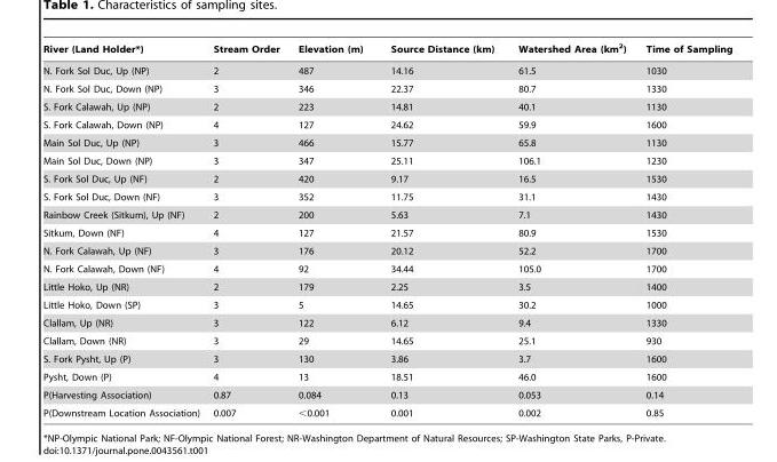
<table><thead><tr><td>River (Land Holder*)</td><td>Stream Order</td><td>Elevation (m)</td><td>Source Distance (km)</td><td>Watershed Area (km<sup>2</sup>)</td><td>Time of Sampling</td></tr></thead><tbody><tr><td>N. Fork Sol Duc, Up (NP)</td><td>2</td><td>487</td><td>14.16</td><td>61.5</td><td>1030</td></tr><tr><td>N. Fork Sol Duc, Down (NP)</td><td>3</td><td>346</td><td>22.37</td><td>80.7</td><td>1330</td></tr><tr><td>S. Fork Calawah, Up (NP)</td><td>2</td><td>223</td><td>14.81</td><td>40.1</td><td>1130</td></tr><tr><td>S. Fork Calawah, Down (NP)</td><td>4</td><td>127</td><td>24.62</td><td>59.9</td><td>1600</td></tr><tr><td>Main Sol Duc, Up (NP)</td><td>3</td><td>466</td><td>15.77</td><td>65.8</td><td>1130</td></tr><tr><td>Main Sol Duc, Down (NP)</td><td>3</td><td>347</td><td>25.11</td><td>106.1</td><td>1230</td></tr><tr><td>S. Fork Sol Duc, Up (NF)</td><td>2</td><td>420</td><td>9.17</td><td>16.5</td><td>1530</td></tr><tr><td>S. Fork Sol Duc, Down (NF)</td><td>3</td><td>352</td><td>11.75</td><td>31.1</td><td>1430</td></tr><tr><td>Rainbow Creek (Sitkum), Up (NF)</td><td>2</td><td>200</td><td>5.63</td><td>7.1</td><td>1430</td></tr><tr><td>Sitkum, Down (NF)</td><td>4</td><td>127</td><td>21.57</td><td>80.9</td><td>1530</td></tr><tr><td>N. Fork Calawah, Up (NF)</td><td>3</td><td>176</td><td>20.12</td><td>52.2</td><td>1700</td></tr><tr><td>N. Fork Calawah, Down (NF)</td><td>4</td><td>92</td><td>34.44</td><td>105.0</td><td>1700</td></tr><tr><td>Little Hoko, Up (NR)</td><td>2</td><td>179</td><td>2.25</td><td>3.5</td><td>1400</td></tr><tr><td>Little Hoko, Down (SP)</td><td>3</td><td>5</td><td>14.65</td><td>30.2</td><td>1000</td></tr><tr><td>Clallam, Up (NR)</td><td>3</td><td>122</td><td>6.12</td><td>9.4</td><td>1330</td></tr><tr><td>Clallam, Down (NR)</td><td>3</td><td>29</td><td>14.65</td><td>25.1</td><td>930</td></tr><tr><td>S. Fork Pysht, Up (P)</td><td>3</td><td>130</td><td>3.86</td><td>3.7</td><td>1600</td></tr><tr><td>Pysht, Down (P)</td><td>4</td><td>13</td><td>18.51</td><td>46.0</td><td>1600</td></tr><tr><td>P(Harvesting Association)</td><td>0.87</td><td>0.084</td><td>0.13</td><td>0.053</td><td>0.14</td></tr><tr><td>P(Downstream Location Association)</td><td>0.007</td><td>&lt;0.001</td><td>0.001</td><td>0.002</td><td>0.85</td></tr></tbody></table>